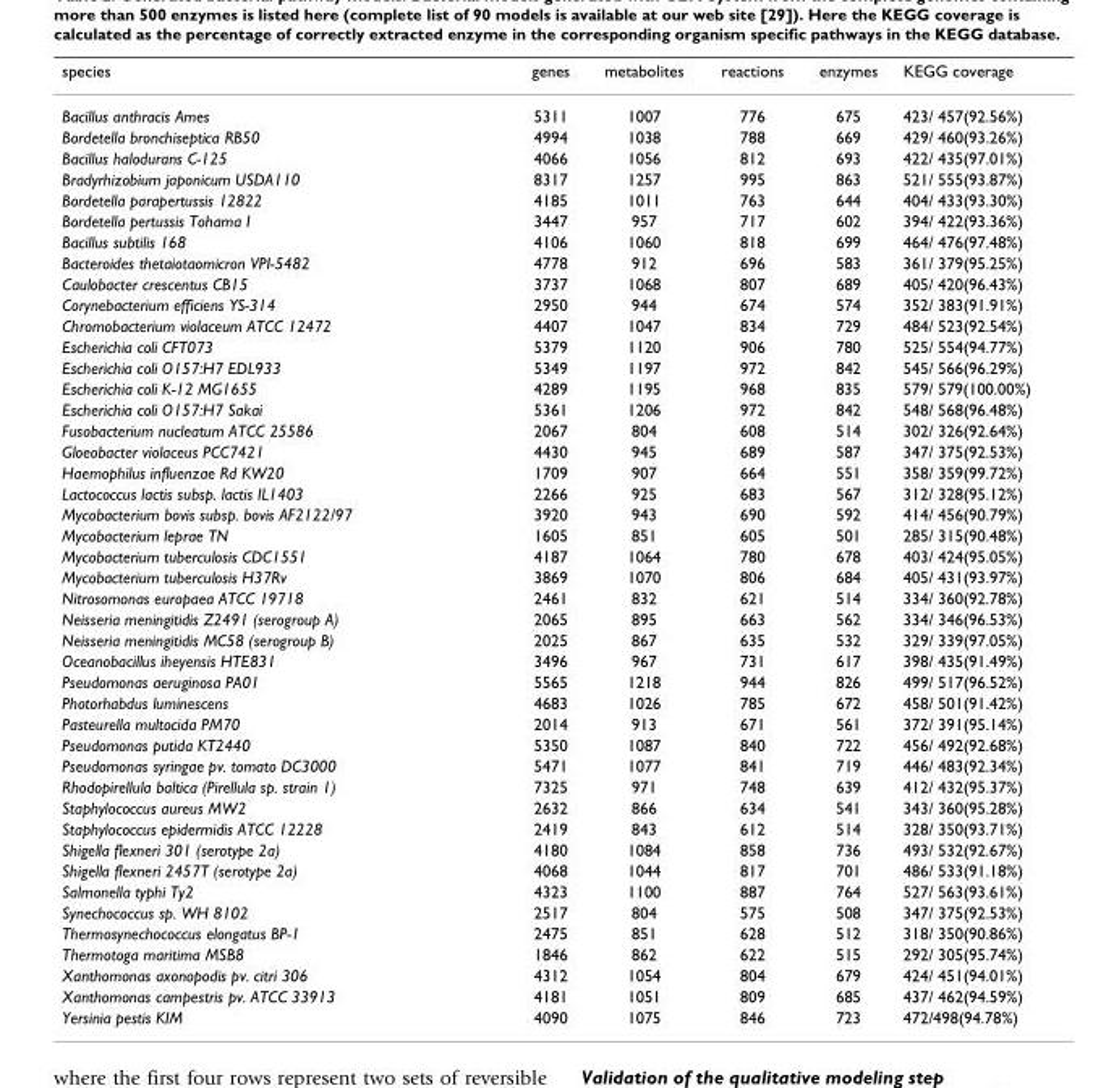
<table><thead><tr><td>species</td><td>genes</td><td>metabolites</td><td>reactions</td><td>enzymes</td><td>KEGG coverage</td></tr></thead><tbody><tr><td>Bacillus anthracis Ames</td><td>5311</td><td>1007</td><td>776</td><td>675</td><td>423/ 457(92.56%)</td></tr><tr><td>Bordetella bronchiseptica RB50</td><td>4994</td><td>1038</td><td>788</td><td>669</td><td>429/ 460(93.26%)</td></tr><tr><td>Bacillus halodurans C-125</td><td>4066</td><td>1056</td><td>812</td><td>693</td><td>422/ 435(97.01%)</td></tr><tr><td>Bradyrhizobium japonicum USDA110</td><td>8317</td><td>1257</td><td>995</td><td>863</td><td>521/ 555(93.87%)</td></tr><tr><td>Bordetella parapertussis 12822</td><td>4185</td><td>1011</td><td>763</td><td>644</td><td>404/ 433(93.30%)</td></tr><tr><td>Bordetella pertussis Tohama I</td><td>3447</td><td>957</td><td>717</td><td>602</td><td>394/ 422(93.36%)</td></tr><tr><td>Bacillus subtilis 168</td><td>4106</td><td>1060</td><td>818</td><td>699</td><td>464/ 476(97.48%)</td></tr><tr><td>Bacteroides thetaiotaomicron VPI-5482</td><td>4778</td><td>912</td><td>696</td><td>583</td><td>361/ 379(95.25%)</td></tr><tr><td>Caulobacter crescentus CB15</td><td>3737</td><td>1068</td><td>807</td><td>689</td><td>405/ 420(96.43%)</td></tr><tr><td>Corynebacterium efficiens YS-314</td><td>2950</td><td>944</td><td>674</td><td>574</td><td>352/ 383(91.91%)</td></tr><tr><td>Chromobacterium violaceum ATCC 12472</td><td>4407</td><td>1047</td><td>834</td><td>729</td><td>484/ 523(92.54%)</td></tr><tr><td>Escherichia coli CFT073</td><td>5379</td><td>1120</td><td>906</td><td>780</td><td>525/ 554(94.77%)</td></tr><tr><td>Escherichia coli O157:H7 EDL933</td><td>5349</td><td>1197</td><td>972</td><td>842</td><td>545/ 566(96.29%)</td></tr><tr><td>Escherichia coli K-12 MG1655</td><td>4289</td><td>1195</td><td>968</td><td>835</td><td>579/ 579(100.00%)</td></tr><tr><td>Escherichia coli O157:H7 Sakai</td><td>5361</td><td>1206</td><td>972</td><td>842</td><td>548/ 568(96.48%)</td></tr><tr><td>Fusobacterium nucleatum ATCC 25586</td><td>2067</td><td>804</td><td>608</td><td>514</td><td>302/ 326(92.64%)</td></tr><tr><td>Gloeobacter violaceus PCC7421</td><td>4430</td><td>945</td><td>689</td><td>587</td><td>347/ 375(92.53%)</td></tr><tr><td>Haemophilus influenzae Rd KW20</td><td>1709</td><td>907</td><td>664</td><td>551</td><td>358/ 359(99.72%)</td></tr><tr><td>Lactococcus lactis subsp. lactis IL1403</td><td>2266</td><td>925</td><td>683</td><td>567</td><td>312/ 328(95.12%)</td></tr><tr><td>Mycobacterium bovis subsp. bovis AF2122/97</td><td>3920</td><td>943</td><td>690</td><td>592</td><td>414/ 456(90.79%)</td></tr><tr><td>Mycobacterium leprae TN</td><td>1605</td><td>851</td><td>605</td><td>501</td><td>285/ 315(90.48%)</td></tr><tr><td>Mycobacterium tuberculosis CDC1551</td><td>4187</td><td>1064</td><td>780</td><td>678</td><td>403/ 424(95.05%)</td></tr><tr><td>Mycobacterium tuberculosis H37Rv</td><td>3869</td><td>1070</td><td>806</td><td>684</td><td>405/ 431(93.97%)</td></tr><tr><td>Nitrosomonas europaea ATCC 19718</td><td>2461</td><td>832</td><td>621</td><td>514</td><td>334/ 360(92.78%)</td></tr><tr><td>Neisseria meningitidis Z2491 (serogroup A)</td><td>2065</td><td>895</td><td>663</td><td>562</td><td>334/ 346(96.53%)</td></tr><tr><td>Neisseria meningitidis MC58 (serogroup B)</td><td>2025</td><td>867</td><td>635</td><td>532</td><td>329/ 339(97.05%)</td></tr><tr><td>Oceanobacillus iheyensis HTE831</td><td>3496</td><td>967</td><td>731</td><td>617</td><td>398/ 435(91.49%)</td></tr><tr><td>Pseudomonas aeruginosa PA01</td><td>5565</td><td>1218</td><td>944</td><td>826</td><td>499/ 517(96.52%)</td></tr><tr><td>Photorhabdus luminescens</td><td>4683</td><td>1026</td><td>785</td><td>672</td><td>458/ 501(91.42%)</td></tr><tr><td>Pasteurella multocida PM70</td><td>2014</td><td>913</td><td>671</td><td>561</td><td>372/ 391(95.14%)</td></tr><tr><td>Pseudomonas putida KT2440</td><td>5350</td><td>1087</td><td>840</td><td>722</td><td>456/ 492(92.68%)</td></tr><tr><td>Pseudomonas syringae pv. tomato DC3000</td><td>5471</td><td>1077</td><td>841</td><td>719</td><td>446/ 483(92.34%)</td></tr><tr><td>Rhodopirellula baltica (Pirellula sp. strain 1)</td><td>7325</td><td>971</td><td>748</td><td>639</td><td>412/ 432(95.37%)</td></tr><tr><td>Staphylococcus aureus MW2</td><td>2632</td><td>866</td><td>634</td><td>541</td><td>343/ 360(95.28%)</td></tr><tr><td>Staphylococcus epidermidis ATCC 12228</td><td>2419</td><td>843</td><td>612</td><td>514</td><td>328/ 350(93.71%)</td></tr><tr><td>Shigella flexneri 301 (serotype 2a)</td><td>4180</td><td>1084</td><td>858</td><td>736</td><td>493/ 532(92.67%)</td></tr><tr><td>Shigella flexneri 2457T (serotype 2a)</td><td>4068</td><td>1044</td><td>817</td><td>701</td><td>486/ 533(91.18%)</td></tr><tr><td>Salmonella typhi Ty2</td><td>4323</td><td>1100</td><td>887</td><td>764</td><td>527/ 563(93.61%)</td></tr><tr><td>Synechococcus sp. WH 8102</td><td>2517</td><td>804</td><td>575</td><td>508</td><td>347/ 375(92.53%)</td></tr><tr><td>Thermosynechococcus elongatus BP-1</td><td>2475</td><td>851</td><td>628</td><td>512</td><td>318/ 350(90.86%)</td></tr><tr><td>Thermotoga maritima MSB8</td><td>1846</td><td>862</td><td>622</td><td>515</td><td>292/ 305(95.74%)</td></tr><tr><td>Xanthomonas axonopodis pv. citri 306</td><td>4312</td><td>1054</td><td>804</td><td>679</td><td>424/ 451(94.01%)</td></tr><tr><td>Xanthomonas campestris pv. ATCC 33913</td><td>4181</td><td>1051</td><td>809</td><td>685</td><td>437/ 462(94.59%)</td></tr><tr><td>Yersinia pestis KIM</td><td>4090</td><td>1075</td><td>846</td><td>723</td><td>472/498(94.78%)</td></tr></tbody></table>